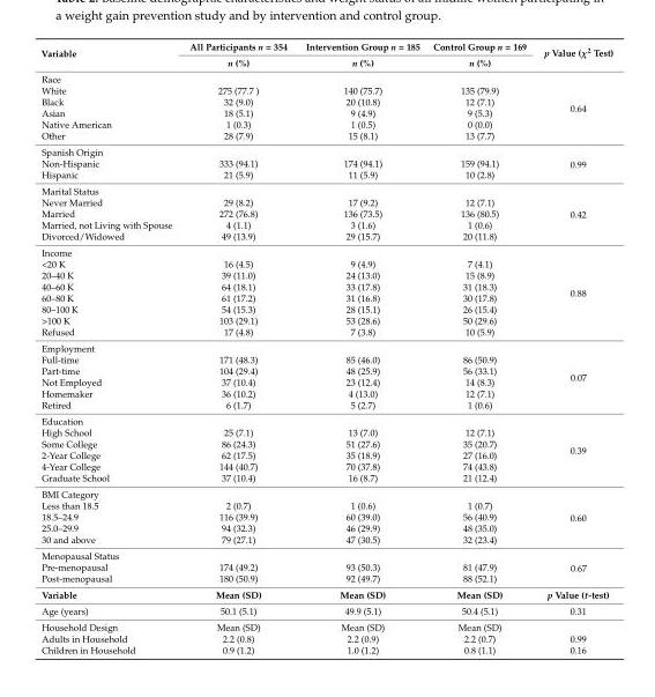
<table><tbody><tr><td rowspan="2">Variable</td><td>All Participants n = 354</td><td>Intervention Group n = 185</td><td>Control Group n = 169</td><td rowspan="2">p Value (χ<sup>2</sup> Test)</td></tr><tr><td>n (%)</td><td>n (%)</td><td>n (%)</td></tr><tr><td colspan="4">Race</td><td rowspan="6">0.64</td></tr><tr><td>White</td><td>275 (77.7 )</td><td>140 (75.7)</td><td>135 (79.9)</td></tr><tr><td>Black</td><td>32 (9.0)</td><td>20 (10.8)</td><td>12 (7.1)</td></tr><tr><td>Asian</td><td>18 (5.1)</td><td>9 (4.9)</td><td>9 (5.3)</td></tr><tr><td>Native American</td><td>1 (0.3)</td><td>1 (0.5)</td><td>0 (0.0)</td></tr><tr><td>Other</td><td>28 (7.9)</td><td>15 (8.1)</td><td>13 (7.7)</td></tr><tr><td colspan="4">Spanish Origin</td><td rowspan="3">0.99</td></tr><tr><td>Non-Hispanic</td><td>333 (94.1)</td><td>174 (94.1)</td><td>159 (94.1)</td></tr><tr><td>Hispanic</td><td>21 (5.9)</td><td>11 (5.9)</td><td>10 (2.8)</td></tr><tr><td colspan="4">Marital Status</td><td rowspan="5">0.42</td></tr><tr><td>Never Married</td><td>29 (8.2)</td><td>17 (9.2)</td><td>12 (7.1)</td></tr><tr><td>Married</td><td>272 (76.8)</td><td>136 (73.5)</td><td>136 (80.5)</td></tr><tr><td>Married, not Living with Spouse</td><td>4 (1.1)</td><td>3 (1.6)</td><td>1 (0.6)</td></tr><tr><td>Divorced/Widowed</td><td>49 (13.9)</td><td>29 (15.7)</td><td>20 (11.8)</td></tr><tr><td colspan="4">Income</td><td rowspan="8">0.88</td></tr><tr><td>&lt;20 K</td><td>16 (4.5)</td><td>9 (4.9)</td><td>7 (4.1)</td></tr><tr><td>20–40 K</td><td>39 (11.0)</td><td>24 (13.0)</td><td>15 (8.9)</td></tr><tr><td>40–60 K</td><td>64 (18.1)</td><td>33 (17.8)</td><td>31 (18.3)</td></tr><tr><td>60–80 K</td><td>61 (17.2)</td><td>31 (16.8)</td><td>30 (17.8)</td></tr><tr><td>80–100 K</td><td>54 (15.3)</td><td>28 (15.1)</td><td>26 (15.4)</td></tr><tr><td>&gt;100 K</td><td>103 (29.1)</td><td>53 (28.6)</td><td>50 (29.6)</td></tr><tr><td>Refused</td><td>17 (4.8)</td><td>7 (3.8)</td><td>10 (5.9)</td></tr><tr><td colspan="4">Employment</td><td rowspan="6">0.07</td></tr><tr><td>Full-time</td><td>171 (48.3)</td><td>85 (46.0)</td><td>86 (50.9)</td></tr><tr><td>Part-time</td><td>104 (29.4)</td><td>48 (25.9)</td><td>56 (33.1)</td></tr><tr><td>Not Employed</td><td>37 (10.4)</td><td>23 (12.4)</td><td>14 (8.3)</td></tr><tr><td>Homemaker</td><td>36 (10.2)</td><td>4 (13.0)</td><td>12 (7.1)</td></tr><tr><td>Retired</td><td>6 (1.7)</td><td>5 (2.7)</td><td>1 (0.6)</td></tr><tr><td colspan="4">Education</td><td rowspan="6">0.39</td></tr><tr><td>High School</td><td>25 (7.1)</td><td>13 (7.0)</td><td>12 (7.1)</td></tr><tr><td>Some College</td><td>86 (24.3)</td><td>51 (27.6)</td><td>35 (20.7)</td></tr><tr><td>2-Year College</td><td>62 (17.5)</td><td>35 (18.9)</td><td>27 (16.0)</td></tr><tr><td>4-Year College</td><td>144 (40.7)</td><td>70 (37.8)</td><td>74 (43.8)</td></tr><tr><td>Graduate School</td><td>37 (10.4)</td><td>16 (8.7)</td><td>21 (12.4)</td></tr><tr><td colspan="4">BMI Category</td><td rowspan="5">0.60</td></tr><tr><td>Less than 18.5</td><td>2 (0.7)</td><td>1 (0.6)</td><td>1 (0.7)</td></tr><tr><td>18.5–24.9</td><td>116 (39.9)</td><td>60 (39.0)</td><td>56 (40.9)</td></tr><tr><td>25.0–29.9</td><td>94 (32.3)</td><td>46 (29.9)</td><td>48 (35.0)</td></tr><tr><td>30 and above</td><td>79 (27.1)</td><td>47 (30.5)</td><td>32 (23.4)</td></tr><tr><td colspan="4">Menopausal Status</td><td rowspan="3">0.67</td></tr><tr><td>Pre-menopausal</td><td>174 (49.2)</td><td>93 (50.3)</td><td>81 (47.9)</td></tr><tr><td>Post-menopausal</td><td>180 (50.9)</td><td>92 (49.7)</td><td>88 (52.1)</td></tr><tr><td>Variable</td><td>Mean (SD)</td><td>Mean (SD)</td><td>Mean (SD)</td><td>p Value (t-test)</td></tr><tr><td>Age (years)</td><td>50.1 (5.1)</td><td>49.9 (5.1)</td><td>50.4 (5.1)</td><td>0.31</td></tr><tr><td>Household Design</td><td>Mean (SD)</td><td>Mean (SD)</td><td>Mean (SD)</td><td></td></tr><tr><td>Adults in Household</td><td>2.2 (0.8)</td><td>2.2 (0.9)</td><td>2.2 (0.7)</td><td>0.99</td></tr><tr><td>Children in Household</td><td>0.9 (1.2)</td><td>1.0 (1.2)</td><td>0.8 (1.1)</td><td>0.16</td></tr></tbody></table>